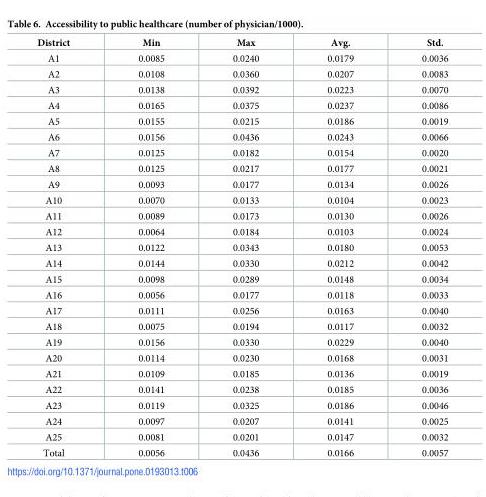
<table><thead><tr><td>District</td><td>Min</td><td>Max</td><td>Avg.</td><td>Std.</td></tr></thead><tbody><tr><td>A1</td><td>0.0085</td><td>0.0240</td><td>0.0179</td><td>0.0036</td></tr><tr><td>A2</td><td>0.0108</td><td>0.0360</td><td>0.0207</td><td>0.0083</td></tr><tr><td>A3</td><td>0.0138</td><td>0.0392</td><td>0.0223</td><td>0.0070</td></tr><tr><td>A4</td><td>0.0165</td><td>0.0375</td><td>0.0237</td><td>0.0086</td></tr><tr><td>A5</td><td>0.0155</td><td>0.0215</td><td>0.0186</td><td>0.0019</td></tr><tr><td>A6</td><td>0.0156</td><td>0.0436</td><td>0.0243</td><td>0.0066</td></tr><tr><td>A7</td><td>0.0125</td><td>0.0182</td><td>0.0154</td><td>0.0020</td></tr><tr><td>A8</td><td>0.0125</td><td>0.0217</td><td>0.0177</td><td>0.0021</td></tr><tr><td>A9</td><td>0.0093</td><td>0.0177</td><td>0.0134</td><td>0.0026</td></tr><tr><td>A10</td><td>0.0070</td><td>0.0133</td><td>0.0104</td><td>0.0023</td></tr><tr><td>A11</td><td>0.0089</td><td>0.0173</td><td>0.0130</td><td>0.0026</td></tr><tr><td>A12</td><td>0.0064</td><td>0.0184</td><td>0.0103</td><td>0.0024</td></tr><tr><td>A13</td><td>0.0122</td><td>0.0343</td><td>0.0180</td><td>0.0053</td></tr><tr><td>A14</td><td>0.0144</td><td>0.0330</td><td>0.0212</td><td>0.0042</td></tr><tr><td>A15</td><td>0.0098</td><td>0.0289</td><td>0.0148</td><td>0.0034</td></tr><tr><td>A16</td><td>0.0056</td><td>0.0177</td><td>0.0118</td><td>0.0033</td></tr><tr><td>A17</td><td>0.0111</td><td>0.0256</td><td>0.0163</td><td>0.0040</td></tr><tr><td>A18</td><td>0.0075</td><td>0.0194</td><td>0.0117</td><td>0.0032</td></tr><tr><td>A19</td><td>0.0156</td><td>0.0330</td><td>0.0229</td><td>0.0040</td></tr><tr><td>A20</td><td>0.0114</td><td>0.0230</td><td>0.0168</td><td>0.0031</td></tr><tr><td>A21</td><td>0.0109</td><td>0.0185</td><td>0.0136</td><td>0.0019</td></tr><tr><td>A22</td><td>0.0141</td><td>0.0238</td><td>0.0185</td><td>0.0036</td></tr><tr><td>A23</td><td>0.0119</td><td>0.0325</td><td>0.0186</td><td>0.0046</td></tr><tr><td>A24</td><td>0.0097</td><td>0.0207</td><td>0.0141</td><td>0.0025</td></tr><tr><td>A25</td><td>0.0081</td><td>0.0201</td><td>0.0147</td><td>0.0032</td></tr><tr><td>Total</td><td>0.0056</td><td>0.0436</td><td>0.0166</td><td>0.0057</td></tr></tbody></table>